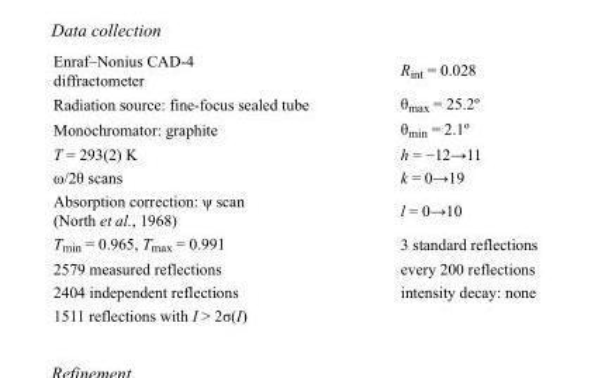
<table><tbody><tr><td>Enraf–Nonius CAD-4 diffractometer</td><td>R<sub>int</sub> = 0.028</td></tr><tr><td>Radiation source: fine-focus sealed tube</td><td>θ<sub>max</sub> = 25.2º</td></tr><tr><td>Monochromator: graphite</td><td>θ<sub>min</sub> = 2.1º</td></tr><tr><td>T = 293(2) K</td><td>h = −12→11</td></tr><tr><td>ω/2θ scans</td><td>k = 0→19</td></tr><tr><td>Absorption correction: ψ scan (North et al., 1968)</td><td>l = 0→10</td></tr><tr><td>T<sub>min</sub> = 0.965, T<sub>max</sub> = 0.991</td><td>3 standard reflections</td></tr><tr><td>2579 measured reflections</td><td>every 200 reflections</td></tr><tr><td>2404 independent reflections</td><td>intensity decay: none</td></tr><tr><td>1511 reflections with I &gt; 2σ(I)</td><td></td></tr></tbody></table>